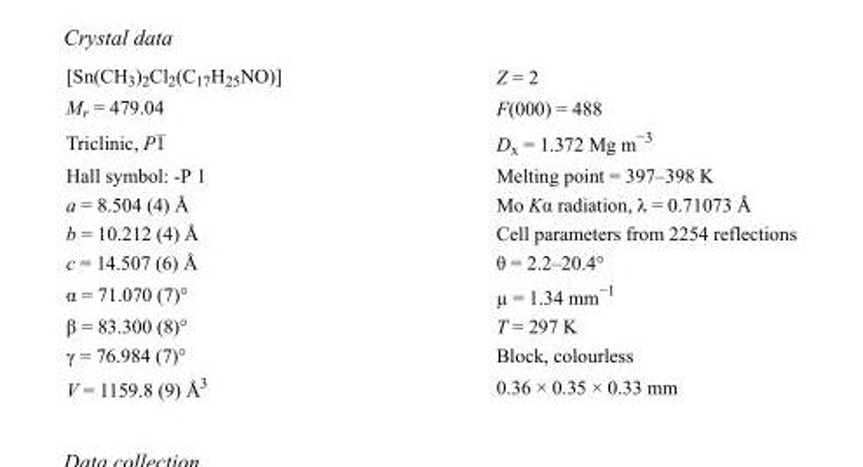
<table><tbody><tr><td>[Sn(CH<sub>3</sub>)<sub>2</sub>Cl<sub>2</sub>(C<sub>17</sub>H<sub>25</sub>NO)]</td><td>Z = 2</td></tr><tr><td>M<sub>r</sub> = 479.04</td><td>F(000) = 488</td></tr><tr><td>Triclinic, P1</td><td>D<sub>x</sub> = 1.372 Mg m<sup>−3</sup></td></tr><tr><td>Hall symbol: -P 1</td><td>Melting point = 397–398 K</td></tr><tr><td>a = 8.504 (4) Å</td><td>Mo Kα radiation, λ = 0.71073 Å</td></tr><tr><td>b = 10.212 (4) Å</td><td>Cell parameters from 2254 reflections</td></tr><tr><td>c = 14.507 (6) Å</td><td>θ = 2.2–20.4°</td></tr><tr><td>α = 71.070 (7)°</td><td>µ = 1.34 mm<sup>−1</sup></td></tr><tr><td>β = 83.300 (8)°</td><td>T = 297 K</td></tr><tr><td>γ = 76.984 (7)°</td><td>Block, colourless</td></tr><tr><td>V = 1159.8 (9) Å<sup>3</sup></td><td>0.36 × 0.35 × 0.33 mm</td></tr></tbody></table>